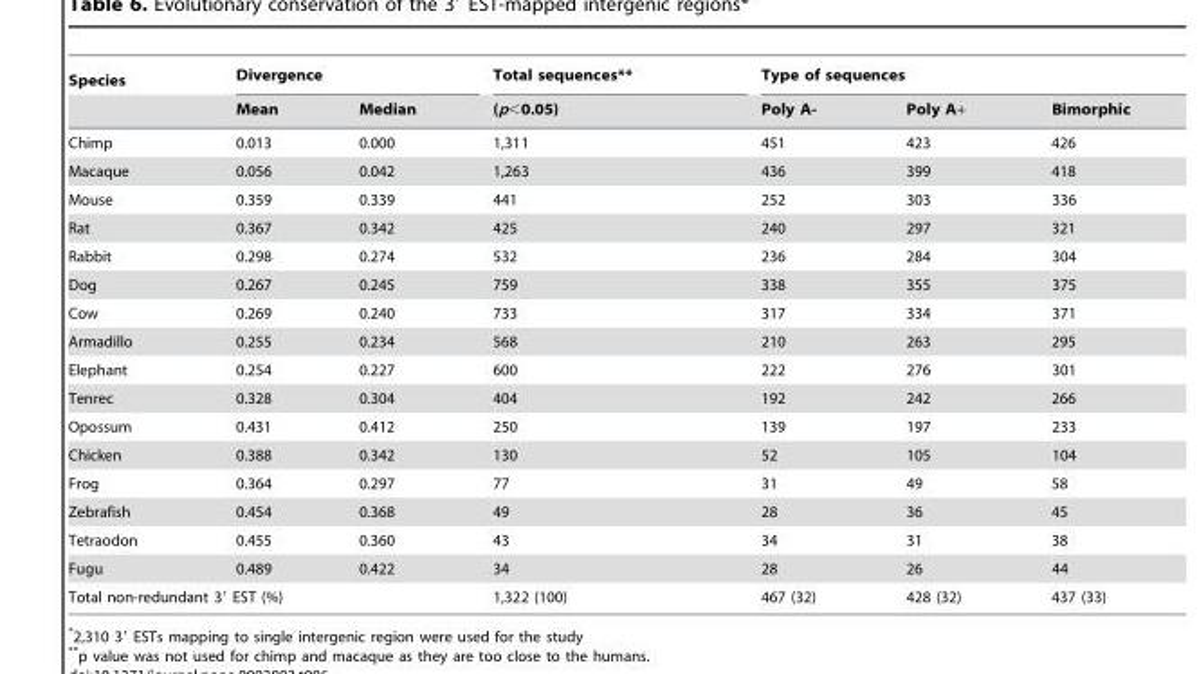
<table><thead><tr><td rowspan="2">Species</td><td colspan="2">Divergence</td><td rowspan="2">Total sequences** (p&lt;0.05)</td><td colspan="3">Type of sequences</td></tr><tr><td>Mean</td><td>Median</td><td>Poly A-</td><td>Poly A+</td><td>Bimorphic</td></tr></thead><tbody><tr><td>Chimp</td><td>0.013</td><td>0.000</td><td>1,311</td><td>451</td><td>423</td><td>426</td></tr><tr><td>Macaque</td><td>0.056</td><td>0.042</td><td>1,263</td><td>436</td><td>399</td><td>418</td></tr><tr><td>Mouse</td><td>0.359</td><td>0.339</td><td>441</td><td>252</td><td>303</td><td>336</td></tr><tr><td>Rat</td><td>0.367</td><td>0.342</td><td>425</td><td>240</td><td>297</td><td>321</td></tr><tr><td>Rabbit</td><td>0.298</td><td>0.274</td><td>532</td><td>236</td><td>284</td><td>304</td></tr><tr><td>Dog</td><td>0.267</td><td>0.245</td><td>759</td><td>338</td><td>355</td><td>375</td></tr><tr><td>Cow</td><td>0.269</td><td>0.240</td><td>733</td><td>317</td><td>334</td><td>371</td></tr><tr><td>Armadillo</td><td>0.255</td><td>0.234</td><td>568</td><td>210</td><td>263</td><td>295</td></tr><tr><td>Elephant</td><td>0.254</td><td>0.227</td><td>600</td><td>222</td><td>276</td><td>301</td></tr><tr><td>Tenrec</td><td>0.328</td><td>0.304</td><td>404</td><td>192</td><td>242</td><td>266</td></tr><tr><td>Opossum</td><td>0.431</td><td>0.412</td><td>250</td><td>139</td><td>197</td><td>233</td></tr><tr><td>Chicken</td><td>0.388</td><td>0.342</td><td>130</td><td>52</td><td>105</td><td>104</td></tr><tr><td>Frog</td><td>0.364</td><td>0.297</td><td>77</td><td>31</td><td>49</td><td>58</td></tr><tr><td>Zebrafish</td><td>0.454</td><td>0.368</td><td>49</td><td>28</td><td>36</td><td>45</td></tr><tr><td>Tetraodon</td><td>0.455</td><td>0.360</td><td>43</td><td>34</td><td>31</td><td>38</td></tr><tr><td>Fugu</td><td>0.489</td><td>0.422</td><td>34</td><td>28</td><td>26</td><td>44</td></tr><tr><td colspan="3">Total non-redundant 3′ EST (%)</td><td>1,322 (100)</td><td>467 (32)</td><td>428 (32)</td><td>437 (33)</td></tr></tbody></table>